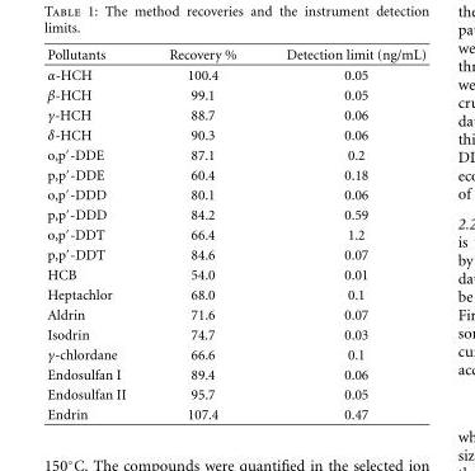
<table><thead><tr><td>Pollutants</td><td>Recovery %</td><td>Detection limit (ng/mL)</td></tr></thead><tbody><tr><td>α-HCH</td><td>100.4</td><td>0.05</td></tr><tr><td>β-HCH</td><td>99.1</td><td>0.05</td></tr><tr><td>γ-HCH</td><td>88.7</td><td>0.06</td></tr><tr><td>δ-HCH</td><td>90.3</td><td>0.06</td></tr><tr><td>o,p′-DDE</td><td>87.1</td><td>0.2</td></tr><tr><td>p,p′-DDE</td><td>60.4</td><td>0.18</td></tr><tr><td>o,p′-DDD</td><td>80.1</td><td>0.06</td></tr><tr><td>p,p′-DDD</td><td>84.2</td><td>0.59</td></tr><tr><td>o,p′-DDT</td><td>66.4</td><td>1.2</td></tr><tr><td>p,p′-DDT</td><td>84.6</td><td>0.07</td></tr><tr><td>HCB</td><td>54.0</td><td>0.01</td></tr><tr><td>Heptachlor</td><td>68.0</td><td>0.1</td></tr><tr><td>Aldrin</td><td>71.6</td><td>0.07</td></tr><tr><td>Isodrin</td><td>74.7</td><td>0.03</td></tr><tr><td>γ-chlordane</td><td>66.6</td><td>0.1</td></tr><tr><td>Endosulfan I</td><td>89.4</td><td>0.06</td></tr><tr><td>Endosulfan II</td><td>95.7</td><td>0.05</td></tr><tr><td>Endrin</td><td>107.4</td><td>0.47</td></tr></tbody></table>